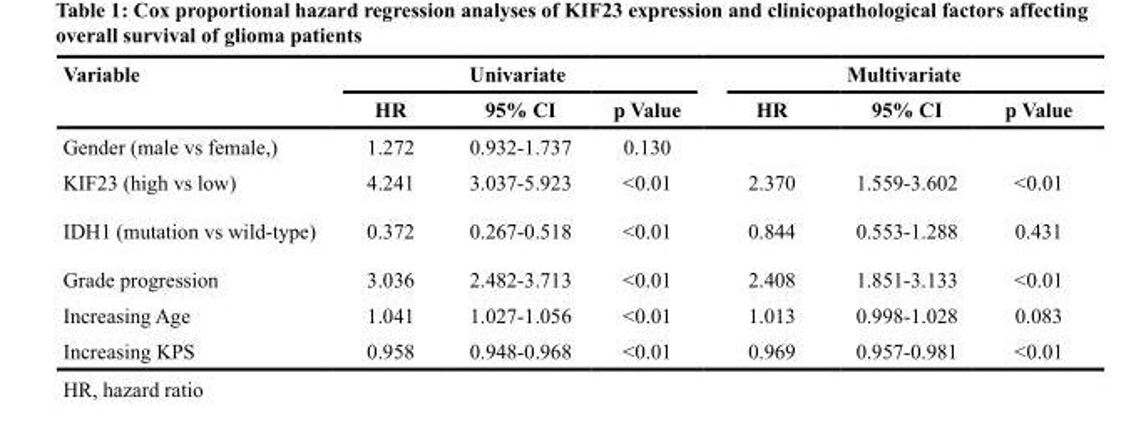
<table><thead><tr><td rowspan="2">Variable</td><td colspan="3">Univariate</td><td colspan="3">Multivariate</td></tr><tr><td>HR</td><td>95% CI</td><td>p Value</td><td>HR</td><td>95% CI</td><td>p Value</td></tr></thead><tbody><tr><td>Gender (male vs female,)</td><td>1.272</td><td>0.932-1.737</td><td>0.130</td><td></td><td></td><td></td></tr><tr><td>KIF23 (high vs low)</td><td>4.241</td><td>3.037-5.923</td><td>&lt;0.01</td><td>2.370</td><td>1.559-3.602</td><td>&lt;0.01</td></tr><tr><td>IDH1 (mutation vs wild-type)</td><td>0.372</td><td>0.267-0.518</td><td>&lt;0.01</td><td>0.844</td><td>0.553-1.288</td><td>0.431</td></tr><tr><td>Grade progression</td><td>3.036</td><td>2.482-3.713</td><td>&lt;0.01</td><td>2.408</td><td>1.851-3.133</td><td>&lt;0.01</td></tr><tr><td>Increasing Age</td><td>1.041</td><td>1.027-1.056</td><td>&lt;0.01</td><td>1.013</td><td>0.998-1.028</td><td>0.083</td></tr><tr><td>Increasing KPS</td><td>0.958</td><td>0.948-0.968</td><td>&lt;0.01</td><td>0.969</td><td>0.957-0.981</td><td>&lt;0.01</td></tr></tbody></table>